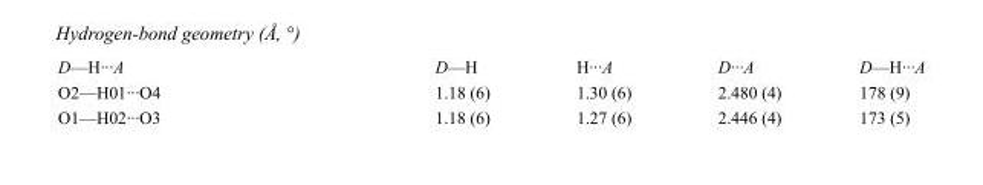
<table><tbody><tr><td>D—H···A</td><td>D—H</td><td>H···A</td><td>D···A</td><td>D—H···A</td></tr><tr><td>O2—H01···O4</td><td>1.18 (6)</td><td>1.30 (6)</td><td>2.480 (4)</td><td>178 (9)</td></tr><tr><td>O1—H02···O3</td><td>1.18 (6)</td><td>1.27 (6)</td><td>2.446 (4)</td><td>173 (5)</td></tr></tbody></table>